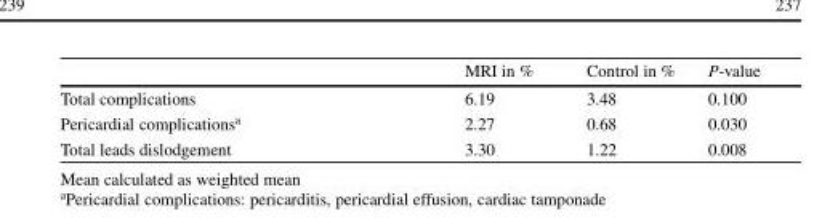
<table><thead><tr><td></td><td>MRI in %</td><td>Control in %</td><td>P-value</td></tr></thead><tbody><tr><td>Total complications</td><td>6.19</td><td>3.48</td><td>0.100</td></tr><tr><td>Pericardial complications<sup>a</sup></td><td>2.27</td><td>0.68</td><td>0.030</td></tr><tr><td>Total leads dislodgement</td><td>3.30</td><td>1.22</td><td>0.008</td></tr></tbody></table>